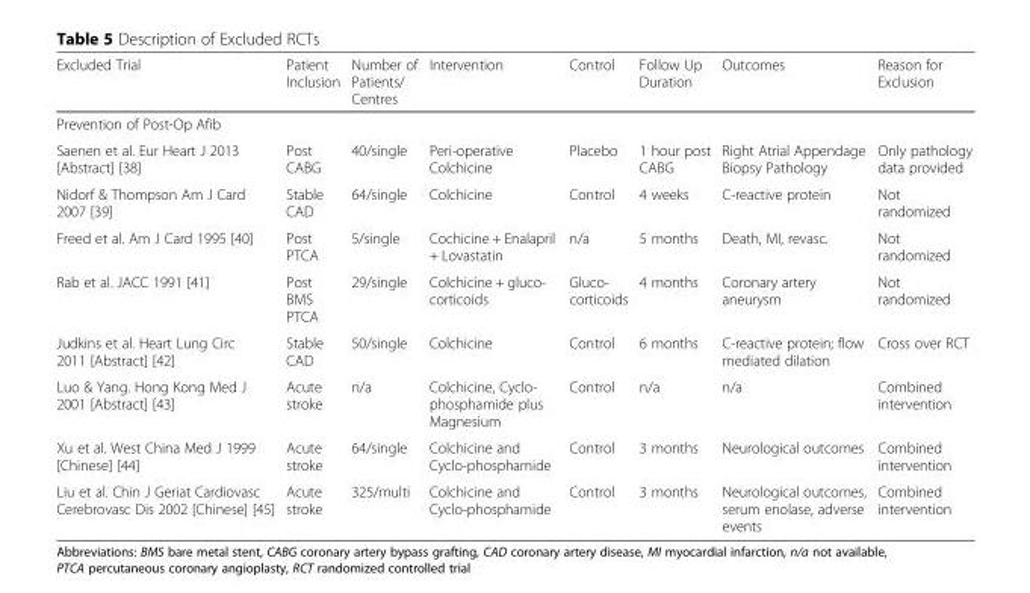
<table><thead><tr><td>Excluded Trial</td><td>Patient Inclusion</td><td>Number of Patients/ Centres</td><td>Intervention</td><td>Control</td><td>Follow Up Duration</td><td>Outcomes</td><td>Reason for Exclusion</td></tr></thead><tbody><tr><td colspan="8">Prevention of Post-Op Afib</td></tr><tr><td>Saenen et al. Eur Heart J 2013 [Abstract] [38]</td><td>Post CABG</td><td>40/single</td><td>Peri-operative Colchicine</td><td>Placebo</td><td>1 hour post CABG</td><td>Right Atrial Appendage Biopsy Pathology</td><td>Only pathology data provided</td></tr><tr><td>Nidorf &amp; Thompson Am J Card 2007 [39]</td><td>Stable CAD</td><td>64/single</td><td>Colchicine</td><td>Control</td><td>4 weeks</td><td>C-reactive protein</td><td>Not randomized</td></tr><tr><td>Freed et al. Am J Card 1995 [40]</td><td>Post PTCA</td><td>5/single</td><td>Cochicine + Enalapril + Lovastatin</td><td>n/a</td><td>5 months</td><td>Death, MI, revasc.</td><td>Not randomized</td></tr><tr><td>Rab et al. JACC 1991 [41]</td><td>Post BMS PTCA</td><td>29/single</td><td>Colchicine + gluco- corticoids</td><td>Gluco- corticoids</td><td>4 months</td><td>Coronary artery aneurysm</td><td>Not randomized</td></tr><tr><td>Judkins et al. Heart Lung Circ 2011 [Abstract] [42]</td><td>Stable CAD</td><td>50/single</td><td>Colchicine</td><td>Control</td><td>6 months</td><td>C-reactive protein; flow mediated dilation</td><td>Cross over RCT</td></tr><tr><td>Luo &amp; Yang. Hong Kong Med J 2001 [Abstract] [43]</td><td>Acute stroke</td><td>n/a</td><td>Colchicine, Cyclo- phosphamide plus Magnesium</td><td>Control</td><td>n/a</td><td>n/a</td><td>Combined intervention</td></tr><tr><td>Xu et al. West China Med J 1999 [Chinese] [44]</td><td>Acute stroke</td><td>64/single</td><td>Colchicine and Cyclo-phosphamide</td><td>Control</td><td>3 months</td><td>Neurological outcomes</td><td>Combined intervention</td></tr><tr><td>Liu et al. Chin J Geriat Cardiovasc Cerebrovasc Dis 2002 [Chinese] [45]</td><td>Acute stroke</td><td>325/multi</td><td>Colchicine and Cyclo-phosphamide</td><td>Control</td><td>3 months</td><td>Neurological outcomes, serum enolase, adverse events</td><td>Combined intervention</td></tr></tbody></table>